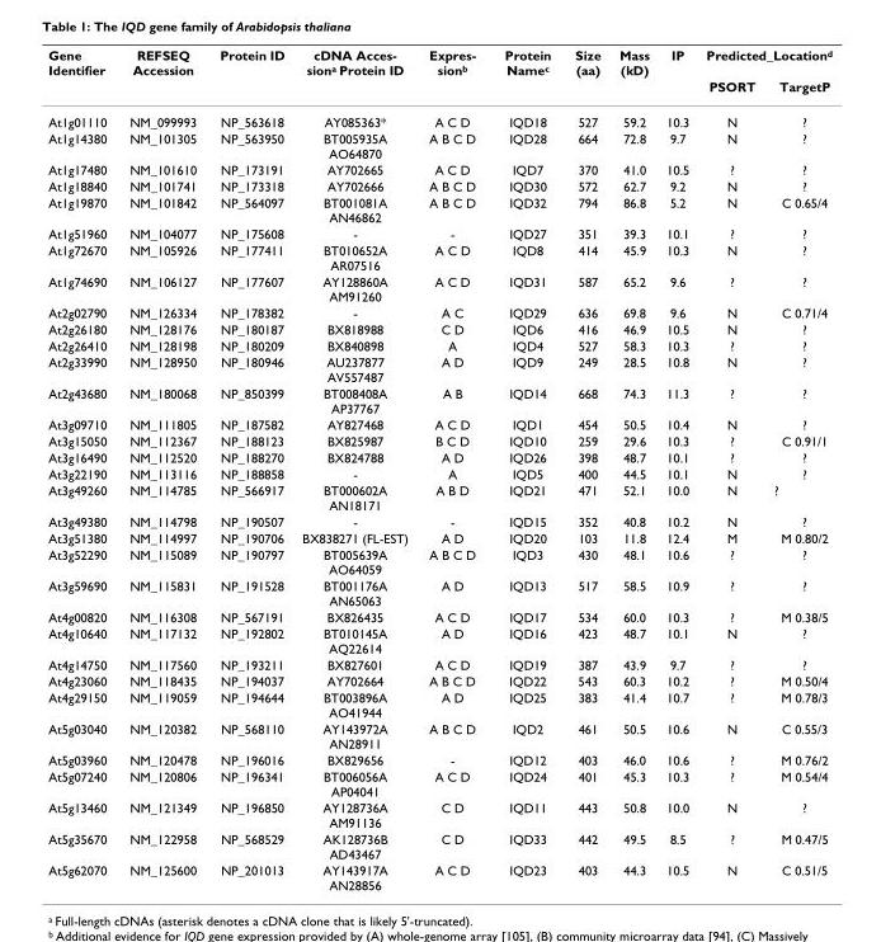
<table><thead><tr><td rowspan="2">Gene Identifier</td><td rowspan="2">REFSEQ Accession</td><td rowspan="2">Protein ID</td><td rowspan="2">cDNA Acces- siona Protein ID</td><td rowspan="2">Expres- sionb</td><td rowspan="2">Protein Name<sup>c</sup></td><td rowspan="2">Size (aa)</td><td rowspan="2">Mass (kD)</td><td rowspan="2">IP</td><td colspan="2">Predicted_Location<sup>d</sup></td></tr><tr><td>PSORT</td><td>TargetP</td></tr></thead><tbody><tr><td>At1g01110</td><td>NM_099993</td><td>NP_563618</td><td>AY085363*</td><td>A C D</td><td>IQD18</td><td>527</td><td>59.2</td><td>10.3</td><td>N</td><td>?</td></tr><tr><td>At1g14380</td><td>NM_101305</td><td>NP_563950</td><td>BT005935A AO64870</td><td>A B C D</td><td>IQD28</td><td>664</td><td>72.8</td><td>9.7</td><td>N</td><td>?</td></tr><tr><td>At1g17480</td><td>NM_101610</td><td>NP_173191</td><td>AY702665</td><td>A C D</td><td>IQD7</td><td>370</td><td>41.0</td><td>10.5</td><td>?</td><td>?</td></tr><tr><td>At1g18840</td><td>NM_101741</td><td>NP_173318</td><td>AY702666</td><td>A B C D</td><td>IQD30</td><td>572</td><td>62.7</td><td>9.2</td><td>N</td><td>?</td></tr><tr><td>At1g19870</td><td>NM_101842</td><td>NP_564097</td><td>BT001081A AN46862</td><td>A B C D</td><td>IQD32</td><td>794</td><td>86.8</td><td>5.2</td><td>N</td><td>C 0.65/4</td></tr><tr><td>At1g51960</td><td>NM_104077</td><td>NP_175608</td><td>-</td><td>-</td><td>IQD27</td><td>351</td><td>39.3</td><td>10.1</td><td>?</td><td>?</td></tr><tr><td>At1g72670</td><td>NM_105926</td><td>NP_177411</td><td>BT010652A AR07516</td><td>A C D</td><td>IQD8</td><td>414</td><td>45.9</td><td>10.3</td><td>N</td><td>?</td></tr><tr><td>At1g74690</td><td>NM_106127</td><td>NP_177607</td><td>AY128860A AM91260</td><td>A C D</td><td>IQD31</td><td>587</td><td>65.2</td><td>9.6</td><td>?</td><td>?</td></tr><tr><td>At2g02790</td><td>NM_126334</td><td>NP_178382</td><td>-</td><td>A C</td><td>IQD29</td><td>636</td><td>69.8</td><td>9.6</td><td>N</td><td>C 0.71/4</td></tr><tr><td>At2g26180</td><td>NM_128176</td><td>NP_180187</td><td>BX818988</td><td>C D</td><td>IQD6</td><td>416</td><td>46.9</td><td>10.5</td><td>N</td><td>?</td></tr><tr><td>At2g26410</td><td>NM_128198</td><td>NP_180209</td><td>BX840898</td><td>A</td><td>IQD4</td><td>527</td><td>58.3</td><td>10.3</td><td>?</td><td>?</td></tr><tr><td>At2g33990</td><td>NM_128950</td><td>NP_180946</td><td>AU237877 AV557487</td><td>A D</td><td>IQD9</td><td>249</td><td>28.5</td><td>10.8</td><td>N</td><td>?</td></tr><tr><td>At2g43680</td><td>NM_180068</td><td>NP_850399</td><td>BT008408A AP37767</td><td>A B</td><td>IQD14</td><td>668</td><td>74.3</td><td>11.3</td><td>?</td><td>?</td></tr><tr><td>At3g09710</td><td>NM_111805</td><td>NP_187582</td><td>AY827468</td><td>A C D</td><td>IQD1</td><td>454</td><td>50.5</td><td>10.4</td><td>N</td><td>?</td></tr><tr><td>At3g15050</td><td>NM_112367</td><td>NP_188123</td><td>BX825987</td><td>B C D</td><td>IQD10</td><td>259</td><td>29.6</td><td>10.3</td><td>?</td><td>C 0.91/1</td></tr><tr><td>At3g16490</td><td>NM_112520</td><td>NP_188270</td><td>BX824788</td><td>A D</td><td>IQD26</td><td>398</td><td>48.7</td><td>10.1</td><td>?</td><td>?</td></tr><tr><td>At3g22190</td><td>NM_113116</td><td>NP_188858</td><td>-</td><td>A</td><td>IQD5</td><td>400</td><td>44.5</td><td>10.1</td><td>N</td><td>?</td></tr><tr><td>At3g49260</td><td>NM_114785</td><td>NP_566917</td><td>BT000602A AN18171</td><td>A B D</td><td>IQD21</td><td>471</td><td>52.1</td><td>10.0</td><td>N</td><td>?</td></tr><tr><td>At3g49380</td><td>NM_114798</td><td>NP_190507</td><td>-</td><td>-</td><td>IQD15</td><td>352</td><td>40.8</td><td>10.2</td><td>N</td><td>?</td></tr><tr><td>At3g51380</td><td>NM_114997</td><td>NP_190706</td><td>BX838271 (FL-EST)</td><td>A D</td><td>IQD20</td><td>103</td><td>11.8</td><td>12.4</td><td>M</td><td>M 0.80/2</td></tr><tr><td>At3g52290</td><td>NM_115089</td><td>NP_190797</td><td>BT005639A AO64059</td><td>A B C D</td><td>IQD3</td><td>430</td><td>48.1</td><td>10.6</td><td>?</td><td>?</td></tr><tr><td>At3g59690</td><td>NM_115831</td><td>NP_191528</td><td>BT001176A AN65063</td><td>A D</td><td>IQD13</td><td>517</td><td>58.5</td><td>10.9</td><td>?</td><td>?</td></tr><tr><td>At4g00820</td><td>NM_116308</td><td>NP_567191</td><td>BX826435</td><td>A C D</td><td>IQD17</td><td>534</td><td>60.0</td><td>10.3</td><td>?</td><td>M 0.38/5</td></tr><tr><td>At4g10640</td><td>NM_117132</td><td>NP_192802</td><td>BT010145A AQ22614</td><td>A D</td><td>IQD16</td><td>423</td><td>48.7</td><td>10.1</td><td>N</td><td>?</td></tr><tr><td>At4g14750</td><td>NM_117560</td><td>NP_193211</td><td>BX827601</td><td>A C D</td><td>IQD19</td><td>387</td><td>43.9</td><td>9.7</td><td>?</td><td>?</td></tr><tr><td>At4g23060</td><td>NM_118435</td><td>NP_194037</td><td>AY702664</td><td>A B C D</td><td>IQD22</td><td>543</td><td>60.3</td><td>10.2</td><td>?</td><td>M 0.50/4</td></tr><tr><td>At4g29150</td><td>NM_119059</td><td>NP_194644</td><td>BT003896A AO41944</td><td>A D</td><td>IQD25</td><td>383</td><td>41.4</td><td>10.7</td><td>?</td><td>M 0.78/3</td></tr><tr><td>At5g03040</td><td>NM_120382</td><td>NP_568110</td><td>AY143972A AN28911</td><td>A B C D</td><td>IQD2</td><td>461</td><td>50.5</td><td>10.6</td><td>N</td><td>C 0.55/3</td></tr><tr><td>At5g03960</td><td>NM_120478</td><td>NP_196016</td><td>BX829656</td><td>-</td><td>IQD12</td><td>403</td><td>46.0</td><td>10.6</td><td>?</td><td>M 0.76/2</td></tr><tr><td>At5g07240</td><td>NM_120806</td><td>NP_196341</td><td>BT006056A AP04041</td><td>A C D</td><td>IQD24</td><td>401</td><td>45.3</td><td>10.3</td><td>?</td><td>M 0.54/4</td></tr><tr><td>At5g13460</td><td>NM_121349</td><td>NP_196850</td><td>AY128736A AM91136</td><td>C D</td><td>IQD11</td><td>443</td><td>50.8</td><td>10.0</td><td>N</td><td>?</td></tr><tr><td>At5g35670</td><td>NM_122958</td><td>NP_568529</td><td>AK128736B AD43467</td><td>C D</td><td>IQD33</td><td>442</td><td>49.5</td><td>8.5</td><td>?</td><td>M 0.47/5</td></tr><tr><td>At5g62070</td><td>NM_125600</td><td>NP_201013</td><td>AY143917A AN28856</td><td>A C D</td><td>IQD23</td><td>403</td><td>44.3</td><td>10.5</td><td>N</td><td>C 0.51/5</td></tr></tbody></table>